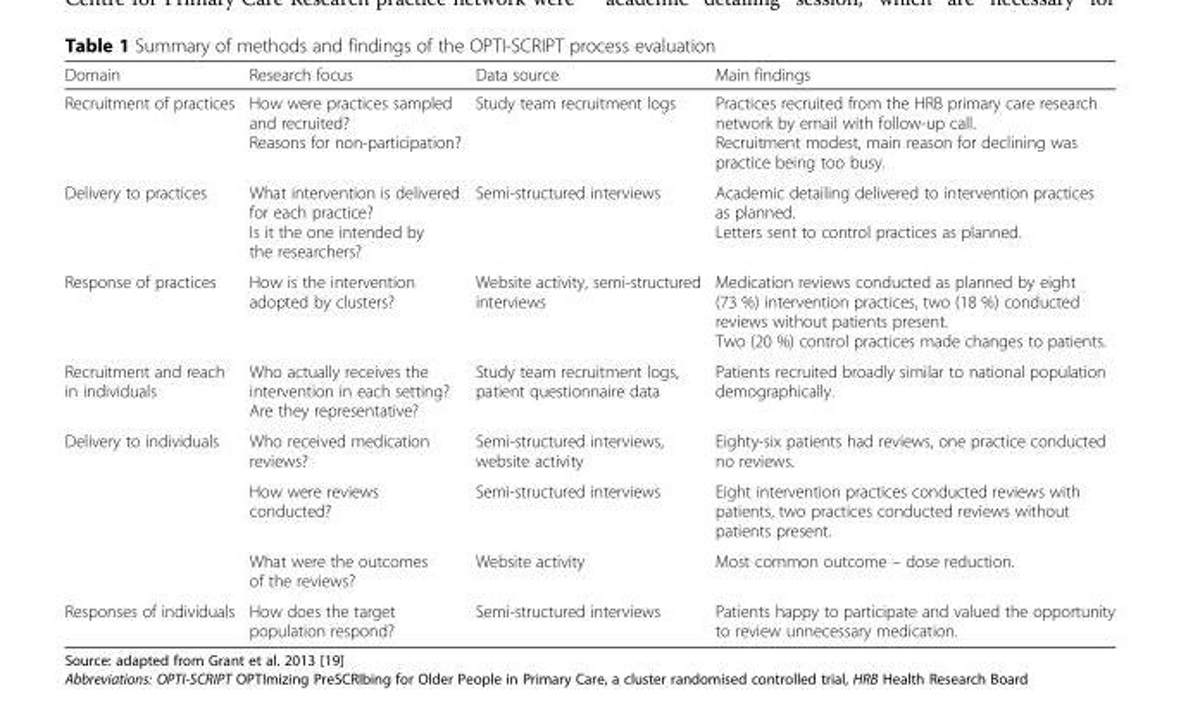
<table><thead><tr><td>Domain</td><td>Research focus</td><td>Data source</td><td>Main findings</td></tr></thead><tbody><tr><td>Recruitment of practices</td><td>How were practices sampled and recruited? Reasons for non-participation?</td><td>Study team recruitment logs</td><td>Practices recruited from the HRB primary care research network by email with follow-up call. Recruitment modest, main reason for declining was practice being too busy.</td></tr><tr><td>Delivery to practices</td><td>What intervention is delivered for each practice? Is it the one intended by the researchers?</td><td>Semi-structured interviews</td><td>Academic detailing delivered to intervention practices as planned. Letters sent to control practices as planned.</td></tr><tr><td>Response of practices</td><td>How is the intervention adopted by clusters?</td><td>Website activity, semi-structured interviews</td><td>Medication reviews conducted as planned by eight (73 %) intervention practices, two (18 %) conducted reviews without patients present. Two (20 %) control practices made changes to patients.</td></tr><tr><td>Recruitment and reach in individuals</td><td>Who actually receives the intervention in each setting? Are they representative?</td><td>Study team recruitment logs, patient questionnaire data</td><td>Patients recruited broadly similar to national population demographically.</td></tr><tr><td rowspan="3">Delivery to individuals</td><td>Who received medication reviews?</td><td>Semi-structured interviews, website activity</td><td>Eighty-six patients had reviews, one practice conducted no reviews.</td></tr><tr><td>How were reviews conducted?</td><td>Semi-structured interviews</td><td>Eight intervention practices conducted reviews with patients, two practices conducted reviews without patients present.</td></tr><tr><td>What were the outcomes of the reviews?</td><td>Website activity</td><td>Most common outcome – dose reduction.</td></tr><tr><td>Responses of individuals</td><td>How does the target population respond?</td><td>Semi-structured interviews</td><td>Patients happy to participate and valued the opportunity to review unnecessary medication.</td></tr></tbody></table>